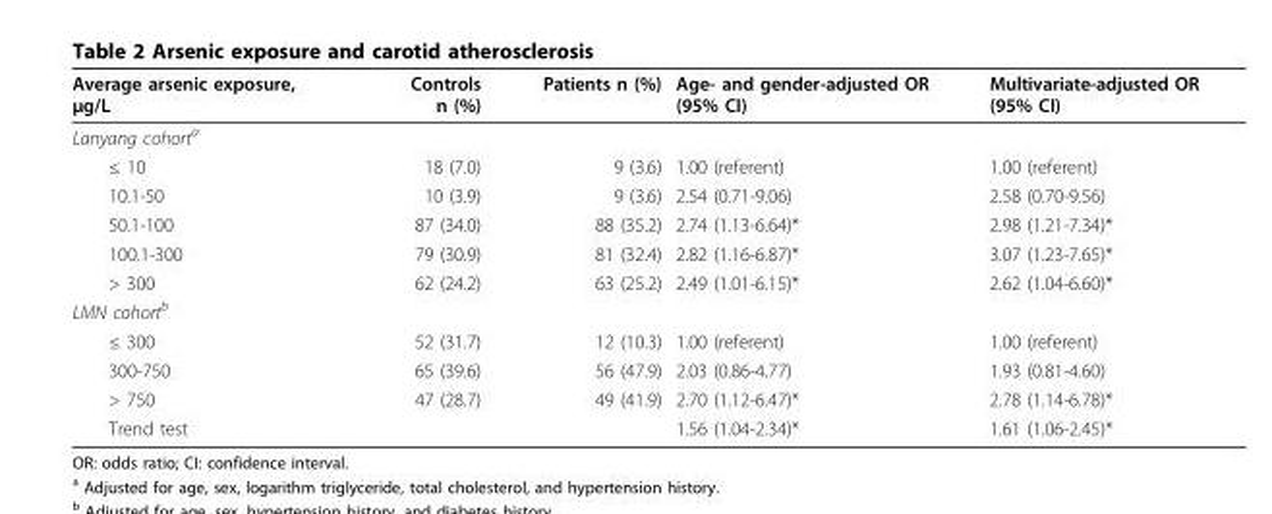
<table><thead><tr><td>Average arsenic exposure, μg/L</td><td>Controls n (%)</td><td>Patients n (%)</td><td>Age- and gender-adjusted OR (95% CI)</td><td>Multivariate-adjusted OR (95% CI)</td></tr></thead><tbody><tr><td colspan="5">Lanyang cohort<sup>a</sup></td></tr><tr><td>≤ 10</td><td>18 (7.0)</td><td>9 (3.6)</td><td>1.00 (referent)</td><td>1.00 (referent)</td></tr><tr><td>10.1-50</td><td>10 (3.9)</td><td>9 (3.6)</td><td>2.54 (0.71-9.06)</td><td>2.58 (0.70-9.56)</td></tr><tr><td>50.1-100</td><td>87 (34.0)</td><td>88 (35.2)</td><td>2.74 (1.13-6.64)*</td><td>2.98 (1.21-7.34)*</td></tr><tr><td>100.1-300</td><td>79 (30.9)</td><td>81 (32.4)</td><td>2.82 (1.16-6.87)*</td><td>3.07 (1.23-7.65)*</td></tr><tr><td>&gt; 300</td><td>62 (24.2)</td><td>63 (25.2)</td><td>2.49 (1.01-6.15)*</td><td>2.62 (1.04-6.60)*</td></tr><tr><td colspan="5">LMN cohort<sup>b</sup></td></tr><tr><td>≤ 300</td><td>52 (31.7)</td><td>12 (10.3)</td><td>1.00 (referent)</td><td>1.00 (referent)</td></tr><tr><td>300-750</td><td>65 (39.6)</td><td>56 (47.9)</td><td>2.03 (0.86-4.77)</td><td>1.93 (0.81-4.60)</td></tr><tr><td>&gt; 750</td><td>47 (28.7)</td><td>49 (41.9)</td><td>2.70 (1.12-6.47)*</td><td>2.78 (1.14-6.78)*</td></tr><tr><td>Trend test</td><td></td><td></td><td>1.56 (1.04-2.34)*</td><td>1.61 (1.06-2.45)*</td></tr></tbody></table>